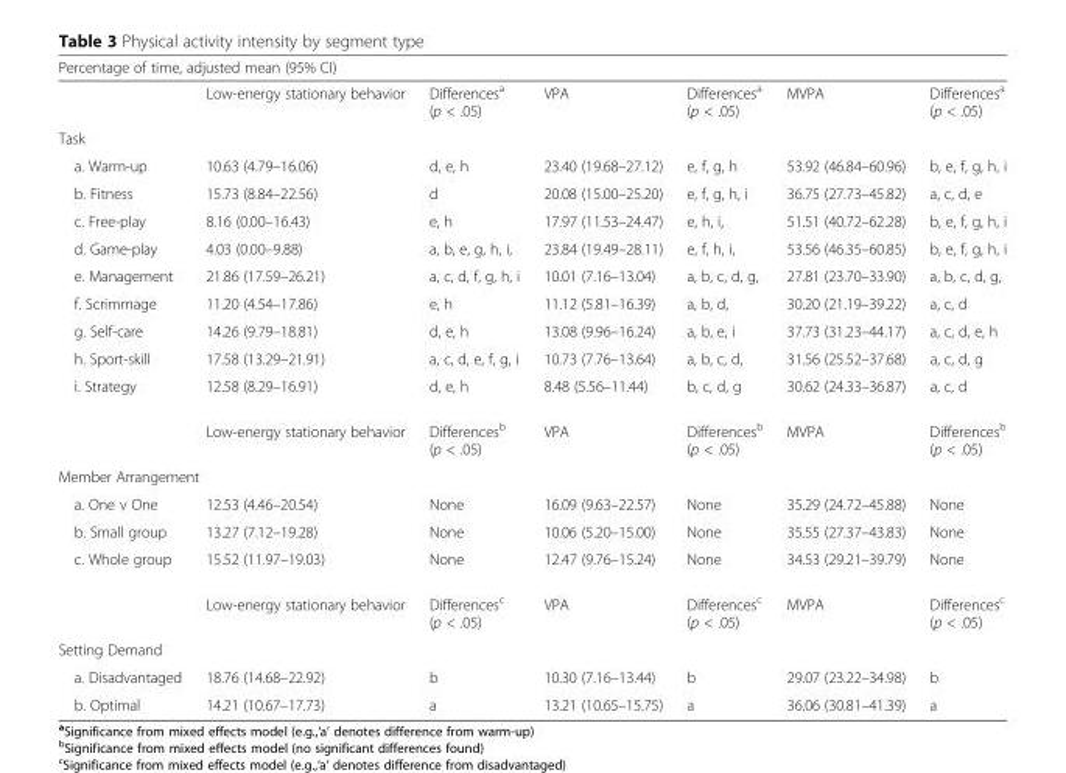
<table><thead><tr><td colspan="7">Percentage of time, adjusted mean (95% CI)</td></tr><tr><td></td><td>Low-energy stationary behavior</td><td>Differences<sup>a</sup> (p &lt; .05)</td><td>VPA</td><td>Differences<sup>a</sup> (p &lt; .05)</td><td>MVPA</td><td>Differences<sup>a</sup> (p &lt; .05)</td></tr></thead><tbody><tr><td colspan="7">Task</td></tr><tr><td>a. Warm-up</td><td>10.63 (4.79–16.06)</td><td>d, e, h</td><td>23.40 (19.68–27.12)</td><td>e, f, g, h</td><td>53.92 (46.84–60.96)</td><td>b, e, f, g, h, i</td></tr><tr><td>b. Fitness</td><td>15.73 (8.84–22.56)</td><td>d</td><td>20.08 (15.00–25.20)</td><td>e, f, g, h, i</td><td>36.75 (27.73–45.82)</td><td>a, c, d, e</td></tr><tr><td>c. Free-play</td><td>8.16 (0.00–16.43)</td><td>e, h</td><td>17.97 (11.53–24.47)</td><td>e, h, i,</td><td>51.51 (40.72–62.28)</td><td>b, e, f, g, h, i</td></tr><tr><td>d. Game-play</td><td>4.03 (0.00–9.88)</td><td>a, b, e, g, h, i,</td><td>23.84 (19.49–28.11)</td><td>e, f, h, i,</td><td>53.56 (46.35–60.85)</td><td>b, e, f, g, h, i</td></tr><tr><td>e. Management</td><td>21.86 (17.59–26.21)</td><td>a, c, d, f, g, h, i</td><td>10.01 (7.16–13.04)</td><td>a, b, c, d, g,</td><td>27.81 (23.70–33.90)</td><td>a, b, c, d, g,</td></tr><tr><td>f. Scrimmage</td><td>11.20 (4.54–17.86)</td><td>e, h</td><td>11.12 (5.81–16.39)</td><td>a, b, d,</td><td>30.20 (21.19–39.22)</td><td>a, c, d</td></tr><tr><td>g. Self-care</td><td>14.26 (9.79–18.81)</td><td>d, e, h</td><td>13.08 (9.96–16.24)</td><td>a, b, e, i</td><td>37.73 (31.23–44.17)</td><td>a, c, d, e, h</td></tr><tr><td>h. Sport-skill</td><td>17.58 (13.29–21.91)</td><td>a, c, d, e, f, g, i</td><td>10.73 (7.76–13.64)</td><td>a, b, c, d,</td><td>31.56 (25.52–37.68)</td><td>a, c, d, g</td></tr><tr><td rowspan="2">i. Strategy</td><td>12.58 (8.29–16.91)</td><td>d, e, h</td><td>8.48 (5.56–11.44)</td><td>b, c, d, g</td><td>30.62 (24.33–36.87)</td><td>a, c, d</td></tr><tr><td>Low-energy stationary behavior</td><td>Differences<sup>b</sup> (p &lt; .05)</td><td>VPA</td><td>Differences<sup>b</sup> (p &lt; .05)</td><td>MVPA</td><td>Differences<sup>b</sup> (p &lt; .05)</td></tr><tr><td colspan="7">Member Arrangement</td></tr><tr><td>a. One v One</td><td>12.53 (4.46–20.54)</td><td>None</td><td>16.09 (9.63–22.57)</td><td>None</td><td>35.29 (24.72–45.88)</td><td>None</td></tr><tr><td>b. Small group</td><td>13.27 (7.12–19.28)</td><td>None</td><td>10.06 (5.20–15.00)</td><td>None</td><td>35.55 (27.37–43.83)</td><td>None</td></tr><tr><td rowspan="2">c. Whole group</td><td>15.52 (11.97–19.03)</td><td>None</td><td>12.47 (9.76–15.24)</td><td>None</td><td>34.53 (29.21–39.79)</td><td>None</td></tr><tr><td>Low-energy stationary behavior</td><td>Differences<sup>c</sup> (p &lt; .05)</td><td>VPA</td><td>Differences<sup>c</sup> (p &lt; .05)</td><td>MVPA</td><td>Differences<sup>c</sup> (p &lt; .05)</td></tr><tr><td colspan="7">Setting Demand</td></tr><tr><td>a. Disadvantaged</td><td>18.76 (14.68–22.92)</td><td>b</td><td>10.30 (7.16–13.44)</td><td>b</td><td>29.07 (23.22–34.98)</td><td>b</td></tr><tr><td>b. Optimal</td><td>14.21 (10.67–17.73)</td><td>a</td><td>13.21 (10.65–15.75)</td><td>a</td><td>36.06 (30.81–41.39)</td><td>a</td></tr></tbody></table>